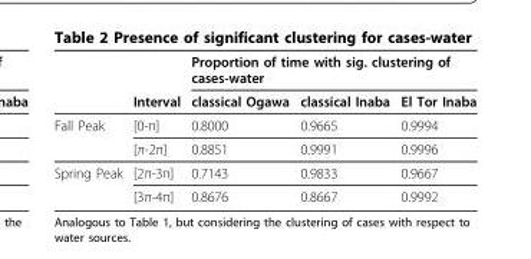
<table><thead><tr><td rowspan="2"></td><td rowspan="2">Interval</td><td colspan="3">Proportion of time with sig. clustering of cases-water</td></tr><tr><td>classical Ogawa</td><td>classical Inaba</td><td>El Tor Inaba</td></tr></thead><tbody><tr><td rowspan="2">Fall Peak</td><td>[0-π]</td><td>0.8000</td><td>0.9665</td><td>0.9994</td></tr><tr><td>[π-2π]</td><td>0.8851</td><td>0.9991</td><td>0.9996</td></tr><tr><td rowspan="2">Spring Peak</td><td>[2π-3π]</td><td>0.7143</td><td>0.9833</td><td>0.9667</td></tr><tr><td>[3π-4π]</td><td>0.8676</td><td>0.8667</td><td>0.9992</td></tr></tbody></table>